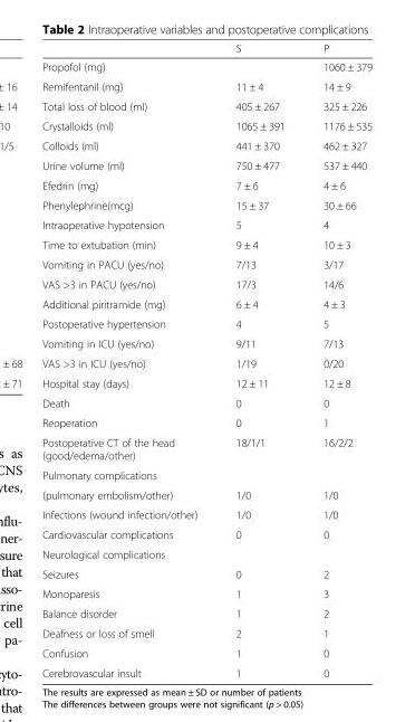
<table><thead><tr><td></td><td>S</td><td>P</td></tr></thead><tbody><tr><td>Propofol (mg)</td><td></td><td>1060 ± 379</td></tr><tr><td>Remifentanil (mg)</td><td>11 ± 4</td><td>14 ± 9</td></tr><tr><td>Total loss of blood (ml)</td><td>405 ± 267</td><td>325 ± 226</td></tr><tr><td>Crystalloids (ml)</td><td>1065 ± 391</td><td>1176 ± 535</td></tr><tr><td>Colloids (ml)</td><td>441 ± 370</td><td>462 ± 327</td></tr><tr><td>Urine volume (ml)</td><td>750 ± 477</td><td>537 ± 440</td></tr><tr><td>Efedrin (mg)</td><td>7 ± 6</td><td>4 ± 6</td></tr><tr><td>Phenylephrine(mcg)</td><td>15 ± 37</td><td>30 ± 66</td></tr><tr><td>Intraoperative hypotension</td><td>5</td><td>4</td></tr><tr><td>Time to extubation (min)</td><td>9 ± 4</td><td>10 ± 3</td></tr><tr><td>Vomiting in PACU (yes/no)</td><td>7/13</td><td>3/17</td></tr><tr><td>VAS &gt;3 in PACU (yes/no)</td><td>17/3</td><td>14/6</td></tr><tr><td>Additional piritramide (mg)</td><td>6 ± 4</td><td>4 ± 3</td></tr><tr><td>Postoperative hypertension</td><td>4</td><td>5</td></tr><tr><td>Vomiting in ICU (yes/no)</td><td>9/11</td><td>7/13</td></tr><tr><td>VAS &gt;3 in ICU (yes/no)</td><td>1/19</td><td>0/20</td></tr><tr><td>Hospital stay (days)</td><td>12 ± 11</td><td>12 ± 8</td></tr><tr><td>Death</td><td>0</td><td>0</td></tr><tr><td>Reoperation</td><td>0</td><td>1</td></tr><tr><td>Postoperative CT of the head (good/edema/other)</td><td>18/1/1</td><td>16/2/2</td></tr><tr><td colspan="3">Pulmonary complications</td></tr><tr><td>(pulmonary embolism/other)</td><td>1/0</td><td>1/0</td></tr><tr><td>Infections (wound infection/other)</td><td>1/0</td><td>1/0</td></tr><tr><td>Cardiovascular complications</td><td>0</td><td>0</td></tr><tr><td colspan="3">Neurological complications</td></tr><tr><td>Seizures</td><td>0</td><td>2</td></tr><tr><td>Monoparesis</td><td>1</td><td>3</td></tr><tr><td>Balance disorder</td><td>1</td><td>2</td></tr><tr><td>Deafness or loss of smell</td><td>2</td><td>1</td></tr><tr><td>Confusion</td><td>1</td><td>0</td></tr><tr><td>Cerebrovascular insult</td><td>1</td><td>0</td></tr></tbody></table>